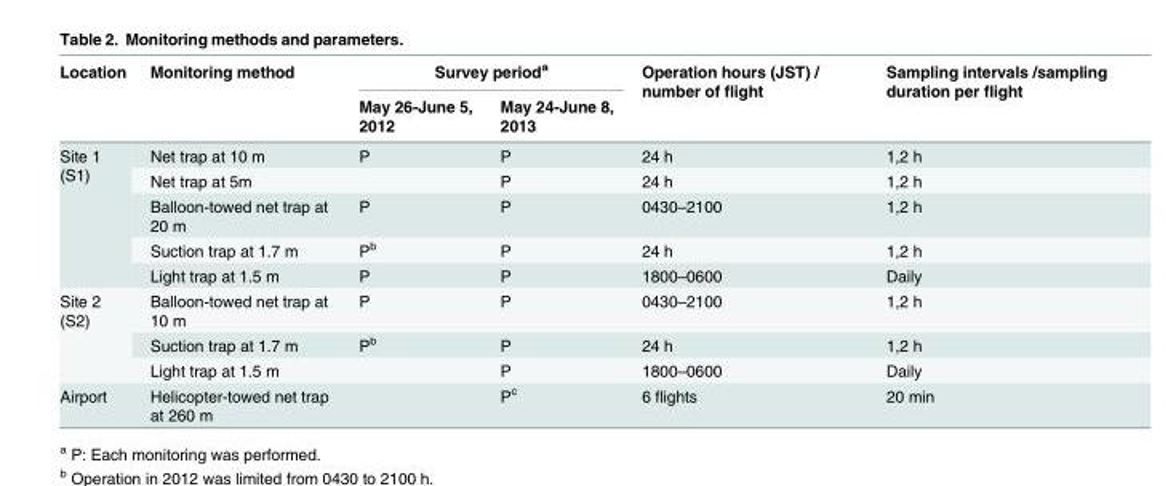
<table><thead><tr><td rowspan="2">Location</td><td rowspan="2">Monitoring method</td><td colspan="2">Survey period<sup>a</sup></td><td rowspan="2">Operation hours (JST) / number of flight</td><td rowspan="2">Sampling intervals /sampling duration per flight</td></tr><tr><td>May 26-June 5, 2012</td><td>May 24-June 8, 2013</td></tr></thead><tbody><tr><td rowspan="5">Site 1 (S1)</td><td>Net trap at 10 m</td><td>P</td><td>P</td><td>24 h</td><td>1,2 h</td></tr><tr><td>Net trap at 5m</td><td></td><td>P</td><td>24 h</td><td>1,2 h</td></tr><tr><td>Balloon-towed net trap at 20 m</td><td>P</td><td>P</td><td>0430–2100</td><td>1,2 h</td></tr><tr><td>Suction trap at 1.7 m</td><td>P<sup>b</sup></td><td>P</td><td>24 h</td><td>1,2 h</td></tr><tr><td>Light trap at 1.5 m</td><td>P</td><td>P</td><td>1800–0600</td><td>Daily</td></tr><tr><td rowspan="3">Site 2 (S2)</td><td>Balloon-towed net trap at 10 m</td><td>P</td><td>P</td><td>0430–2100</td><td>1,2 h</td></tr><tr><td>Suction trap at 1.7 m</td><td>P<sup>b</sup></td><td>P</td><td>24 h</td><td>1,2 h</td></tr><tr><td>Light trap at 1.5 m</td><td></td><td>P</td><td>1800–0600</td><td>Daily</td></tr><tr><td>Airport</td><td>Helicopter-towed net trap at 260 m</td><td></td><td>P<sup>c</sup></td><td>6 flights</td><td>20 min</td></tr></tbody></table>